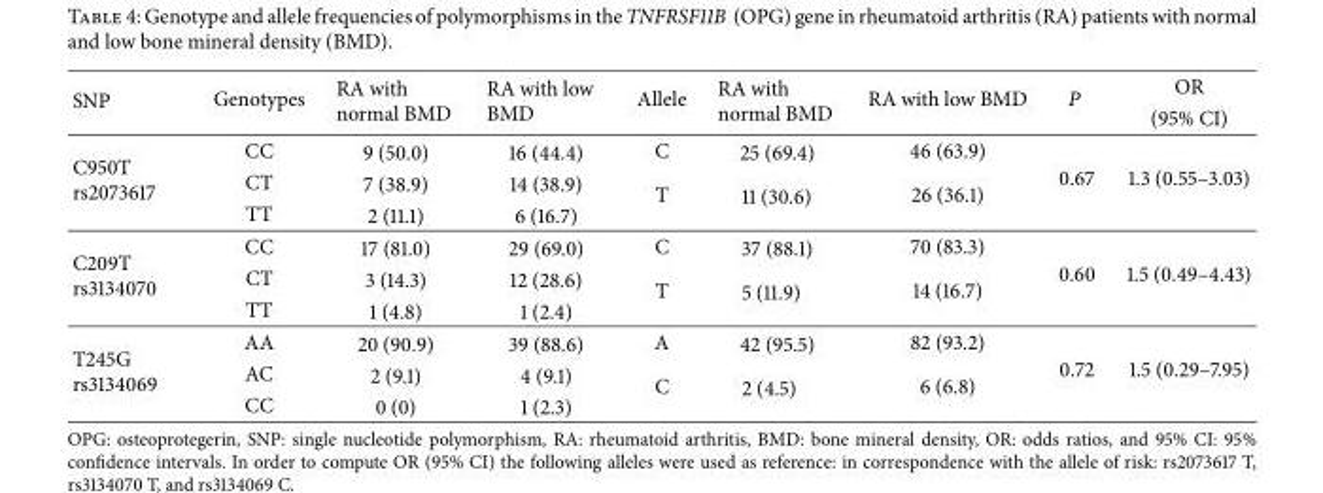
<table><thead><tr><td rowspan="2">SNP</td><td rowspan="2">Genotypes</td><td rowspan="2">RA with normal BMD</td><td rowspan="2">RA with low BMD</td><td rowspan="2">Allele</td><td rowspan="2">RA with normal BMD</td><td rowspan="2">RA with low BMD</td><td rowspan="2">P</td><td rowspan="2">OR (95% CI)</td></tr><tr></tr></thead><tbody><tr><td rowspan="3">C950T rs2073617</td><td>CC</td><td>9 (50.0)</td><td>16 (44.4)</td><td>C</td><td>25 (69.4)</td><td>46 (63.9)</td><td rowspan="3">0.67</td><td rowspan="3">1.3 (0.55–3.03)</td></tr><tr><td>CT</td><td>7 (38.9)</td><td>14 (38.9)</td><td rowspan="2">T</td><td rowspan="2">11 (30.6)</td><td rowspan="2">26 (36.1)</td></tr><tr><td>TT</td><td>2 (11.1)</td><td>6 (16.7)</td></tr><tr><td rowspan="3">C209T rs3134070</td><td>CC</td><td>17 (81.0)</td><td>29 (69.0)</td><td>C</td><td>37 (88.1)</td><td>70 (83.3)</td><td rowspan="3">0.60</td><td rowspan="3">1.5 (0.49–4.43)</td></tr><tr><td>CT</td><td>3 (14.3)</td><td>12 (28.6)</td><td rowspan="2">T</td><td rowspan="2">5 (11.9)</td><td rowspan="2">14 (16.7)</td></tr><tr><td>TT</td><td>1 (4.8)</td><td>1 (2.4)</td></tr><tr><td rowspan="3">T245G rs3134069</td><td>AA</td><td>20 (90.9)</td><td>39 (88.6)</td><td>A</td><td>42 (95.5)</td><td>82 (93.2)</td><td rowspan="3">0.72</td><td rowspan="3">1.5 (0.29–7.95)</td></tr><tr><td>AC</td><td>2 (9.1)</td><td>4 (9.1)</td><td rowspan="2">C</td><td rowspan="2">2 (4.5)</td><td rowspan="2">6 (6.8)</td></tr><tr><td>CC</td><td>0 (0)</td><td>1 (2.3)</td></tr></tbody></table>